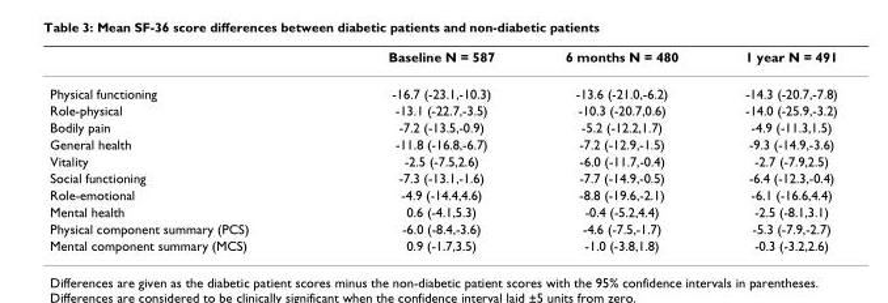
<table><thead><tr><td></td><td>Baseline N = 587</td><td>6 months N = 480</td><td>1 year N = 491</td></tr></thead><tbody><tr><td>Physical functioning</td><td>-16.7 (-23.1,-10.3)</td><td>-13.6 (-21.0,-6.2)</td><td>-14.3 (-20.7,-7.8)</td></tr><tr><td>Role-physical</td><td>-13.1 (-22.7,-3.5)</td><td>-10.3 (-20.7,0.6)</td><td>-14.0 (-25.9,-3.2)</td></tr><tr><td>Bodily pain</td><td>-7.2 (-13.5,-0.9)</td><td>-5.2 (-12.2,1.7)</td><td>-4.9 (-11.3,1.5)</td></tr><tr><td>General health</td><td>-11.8 (-16.8,-6.7)</td><td>-7.2 (-12.9,-1.5)</td><td>-9.3 (-14.9,-3.6)</td></tr><tr><td>Vitality</td><td>-2.5 (-7.5,2.6)</td><td>-6.0 (-11.7,-0.4)</td><td>-2.7 (-7.9,2.5)</td></tr><tr><td>Social functioning</td><td>-7.3 (-13.1,-1.6)</td><td>-7.7 (-14.9,-0.5)</td><td>-6.4 (-12.3,-0.4)</td></tr><tr><td>Role-emotional</td><td>-4.9 (-14.4,4.6)</td><td>-8.8 (-19.6,-2.1)</td><td>-6.1 (-16.6,4.4)</td></tr><tr><td>Mental health</td><td>0.6 (-4.1,5.3)</td><td>-0.4 (-5.2,4.4)</td><td>-2.5 (-8.1,3.1)</td></tr><tr><td>Physical component summary (PCS)</td><td>-6.0 (-8.4,-3.6)</td><td>-4.6 (-7.5,-1.7)</td><td>-5.3 (-7.9,-2.7)</td></tr><tr><td>Mental component summary (MCS)</td><td>0.9 (-1.7,3.5)</td><td>-1.0 (-3.8,1.8)</td><td>-0.3 (-3.2,2.6)</td></tr></tbody></table>